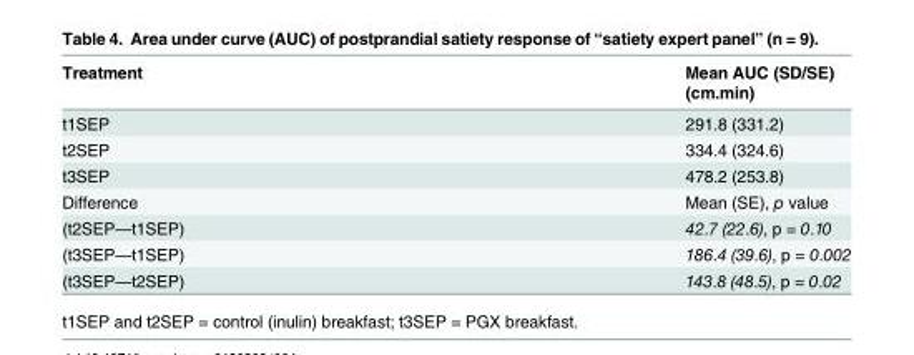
<table><thead><tr><td rowspan="2">Treatment</td><td rowspan="2">Mean AUC (SD/SE) (cm.min)</td></tr><tr></tr></thead><tbody><tr><td>t1SEP</td><td>291.8 (331.2)</td></tr><tr><td>t2SEP</td><td>334.4 (324.6)</td></tr><tr><td>t3SEP</td><td>478.2 (253.8)</td></tr><tr><td>Difference</td><td>Mean (SE), p value</td></tr><tr><td>(t2SEP—t1SEP)</td><td>42.7 (22.6), p = 0.10</td></tr><tr><td>(t3SEP—t1SEP)</td><td>186.4 (39.6), p = 0.002</td></tr><tr><td>(t3SEP—t2SEP)</td><td>143.8 (48.5), p = 0.02</td></tr></tbody></table>